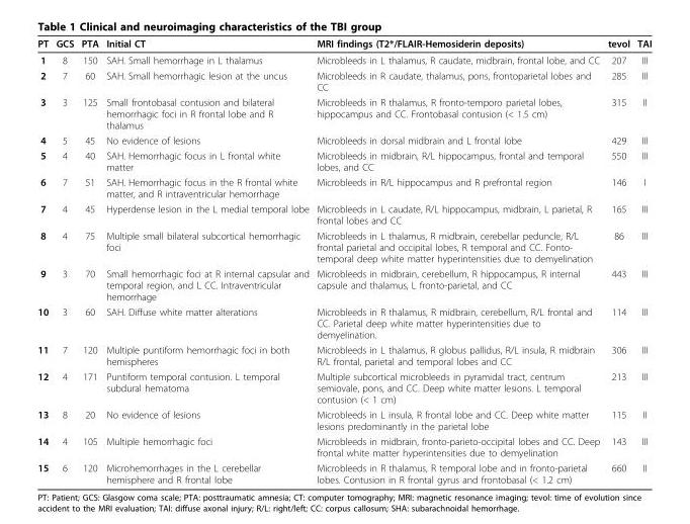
<table><thead><tr><td>PT</td><td>GCS</td><td>PTA</td><td>Initial CT</td><td>MRI findings (T2*/FLAIR-Hemosiderin deposits)</td><td>tevol</td><td>TAI</td></tr></thead><tbody><tr><td>1</td><td>8</td><td>150</td><td>SAH. Small hemorrhage in L thalamus</td><td>Microbleeds in L thalamus, R caudate, midbrain, frontal lobe, and CC</td><td>207</td><td>III</td></tr><tr><td>2</td><td>7</td><td>60</td><td>SAH. Small hemorrhagic lesion at the uncus</td><td>Microbleeds in R caudate, thalamus, pons, frontoparietal lobes and CC</td><td>285</td><td>III</td></tr><tr><td>3</td><td>3</td><td>125</td><td>Small frontobasal contusion and bilateral hemorrhagic foci in R frontal lobe and R thalamus</td><td>Microbleeds in R thalamus, R fronto-temporo parietal lobes, hippocampus and CC. Frontobasal contusion (&lt; 1.5 cm)</td><td>315</td><td>II</td></tr><tr><td>4</td><td>5</td><td>45</td><td>No evidence of lesions</td><td>Microbleeds in dorsal midbrain and L frontal lobe</td><td>429</td><td>III</td></tr><tr><td>5</td><td>4</td><td>40</td><td>SAH. Hemorrhagic focus in L frontal white matter</td><td>Microbleeds in midbrain, R/L hippocampus, frontal and temporal lobes, and CC</td><td>550</td><td>III</td></tr><tr><td>6</td><td>7</td><td>51</td><td>SAH. Hemorrhagic focus in the R frontal white matter, and R intraventricular hemorrhage</td><td>Microbleeds in R/L hippocampus and R prefrontal region</td><td>146</td><td>I</td></tr><tr><td>7</td><td>4</td><td>45</td><td>Hyperdense lesion in the L medial temporal lobe</td><td>Microbleeds in L caudate, R/L hippocampus, midbrain, L parietal, R frontal lobes and CC</td><td>165</td><td>III</td></tr><tr><td>8</td><td>4</td><td>75</td><td>Multiple small bilateral subcortical hemorrhagic foci</td><td>Microbleeds in L thalamus, R midbrain, cerebellar peduncle, R/L frontal parietal and occipital lobes, R temporal and CC. Fonto- temporal deep white matter hyperintensities due to demyelination</td><td>86</td><td>III</td></tr><tr><td>9</td><td>3</td><td>70</td><td>Small hemorrhagic foci at R internal capsular and temporal region, and L CC. Intraventricular hemorrhage</td><td>Microbleeds in midbrain, cerebellum, R hippocampus, R internal capsule and thalamus, L fronto-parietal, and CC</td><td>443</td><td>III</td></tr><tr><td>10</td><td>3</td><td>60</td><td>SAH. Diffuse white matter alterations</td><td>Microbleeds in R thalamus, R midbrain, cerebellum, R/L frontal and CC. Parietal deep white matter hyperintensities due to demyelination.</td><td>114</td><td>III</td></tr><tr><td>11</td><td>7</td><td>120</td><td>Multiple puntiform hemorrhagic foci in both hemispheres</td><td>Microbleeds in L thalamus, R globus pallidus, R/L insula, R midbrain R/L frontal, parietal and temporal lobes and CC</td><td>306</td><td>III</td></tr><tr><td>12</td><td>4</td><td>171</td><td>Puntiform temporal contusion. L temporal subdural hematoma</td><td>Multiple subcortical microbleeds in pyramidal tract, centrum semiovale, pons, and CC. Deep white matter lesions. L temporal contusion (&lt; 1 cm)</td><td>213</td><td>III</td></tr><tr><td>13</td><td>8</td><td>20</td><td>No evidence of lesions</td><td>Microbleeds in L insula, R frontal lobe and CC. Deep white matter lesions predominantly in the parietal lobe</td><td>115</td><td>II</td></tr><tr><td>14</td><td>4</td><td>105</td><td>Multiple hemorrhagic foci</td><td>Microbleeds in midbrain, fronto-parieto-occipital lobes and CC. Deep frontal white matter hyperintensities due to demyelination</td><td>143</td><td>III</td></tr><tr><td>15</td><td>6</td><td>120</td><td>Microhemorrhages in the L cerebellar hemisphere and R frontal lobe</td><td>Microbleeds in R thalamus, R temporal lobe and in fronto-parietal lobes. Contusion in R frontal gyrus and frontobasal (&lt; 1.2 cm)</td><td>660</td><td>II</td></tr></tbody></table>